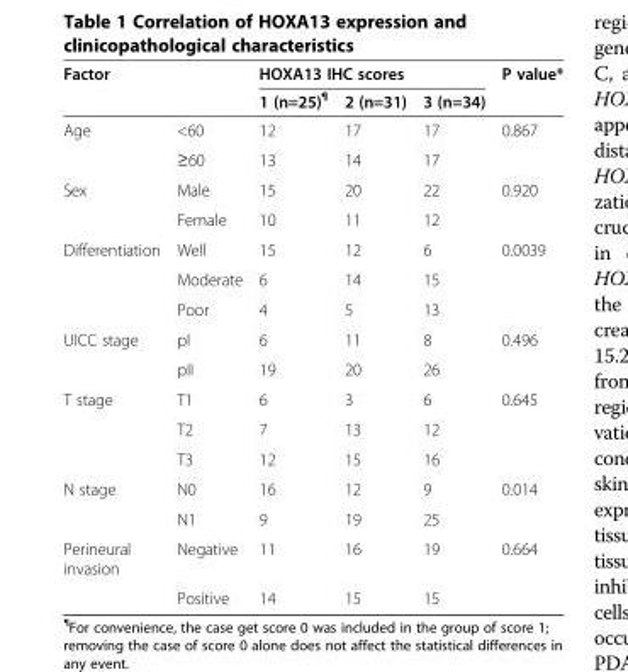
<table><thead><tr><td rowspan="2">Factor</td><td rowspan="2"></td><td colspan="3">HOXA13 IHC scores</td><td rowspan="2">P value*</td></tr><tr><td>1 (n=25)<sup>¶</sup></td><td>2 (n=31)</td><td>3 (n=34)</td></tr></thead><tbody><tr><td rowspan="2">Age</td><td>&lt;60</td><td>12</td><td>17</td><td>17</td><td>0.867</td></tr><tr><td>≥60</td><td>13</td><td>14</td><td>17</td><td></td></tr><tr><td rowspan="2">Sex</td><td>Male</td><td>15</td><td>20</td><td>22</td><td>0.920</td></tr><tr><td>Female</td><td>10</td><td>11</td><td>12</td><td></td></tr><tr><td rowspan="3">Differentiation</td><td>Well</td><td>15</td><td>12</td><td>6</td><td>0.0039</td></tr><tr><td>Moderate</td><td>6</td><td>14</td><td>15</td><td></td></tr><tr><td>Poor</td><td>4</td><td>5</td><td>13</td><td></td></tr><tr><td rowspan="2">UICC stage</td><td>pI</td><td>6</td><td>11</td><td>8</td><td>0.496</td></tr><tr><td>pII</td><td>19</td><td>20</td><td>26</td><td></td></tr><tr><td rowspan="3">T stage</td><td>T1</td><td>6</td><td>3</td><td>6</td><td>0.645</td></tr><tr><td>T2</td><td>7</td><td>13</td><td>12</td><td></td></tr><tr><td>T3</td><td>12</td><td>15</td><td>16</td><td></td></tr><tr><td rowspan="2">N stage</td><td>N0</td><td>16</td><td>12</td><td>9</td><td>0.014</td></tr><tr><td>N1</td><td>9</td><td>19</td><td>25</td><td></td></tr><tr><td rowspan="2">Perineural invasion</td><td>Negative</td><td>11</td><td>16</td><td>19</td><td>0.664</td></tr><tr><td>Positive</td><td>14</td><td>15</td><td>15</td><td></td></tr></tbody></table>